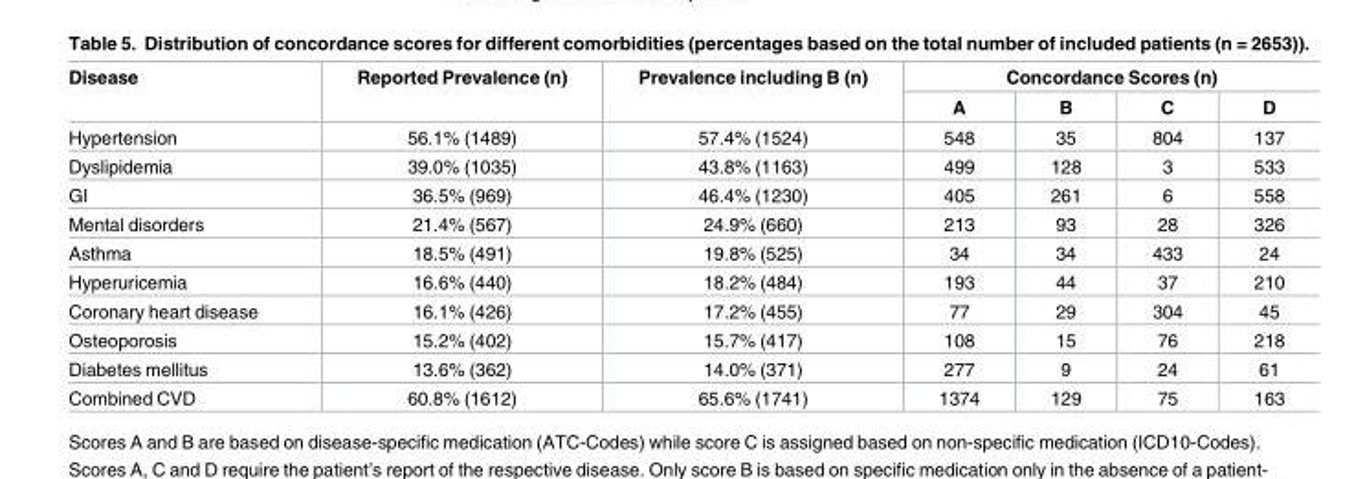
<table><thead><tr><td rowspan="2">Disease</td><td rowspan="2">Reported Prevalence (n)</td><td rowspan="2">Prevalence including B (n)</td><td colspan="4">Concordance Scores (n)</td></tr><tr><td>A</td><td>B</td><td>C</td><td>D</td></tr></thead><tbody><tr><td>Hypertension</td><td>56.1% (1489)</td><td>57.4% (1524)</td><td>548</td><td>35</td><td>804</td><td>137</td></tr><tr><td>Dyslipidemia</td><td>39.0% (1035)</td><td>43.8% (1163)</td><td>499</td><td>128</td><td>3</td><td>533</td></tr><tr><td>GI</td><td>36.5% (969)</td><td>46.4% (1230)</td><td>405</td><td>261</td><td>6</td><td>558</td></tr><tr><td>Mental disorders</td><td>21.4% (567)</td><td>24.9% (660)</td><td>213</td><td>93</td><td>28</td><td>326</td></tr><tr><td>Asthma</td><td>18.5% (491)</td><td>19.8% (525)</td><td>34</td><td>34</td><td>433</td><td>24</td></tr><tr><td>Hyperuricemia</td><td>16.6% (440)</td><td>18.2% (484)</td><td>193</td><td>44</td><td>37</td><td>210</td></tr><tr><td>Coronary heart disease</td><td>16.1% (426)</td><td>17.2% (455)</td><td>77</td><td>29</td><td>304</td><td>45</td></tr><tr><td>Osteoporosis</td><td>15.2% (402)</td><td>15.7% (417)</td><td>108</td><td>15</td><td>76</td><td>218</td></tr><tr><td>Diabetes mellitus</td><td>13.6% (362)</td><td>14.0% (371)</td><td>277</td><td>9</td><td>24</td><td>61</td></tr><tr><td>Combined CVD</td><td>60.8% (1612)</td><td>65.6% (1741)</td><td>1374</td><td>129</td><td>75</td><td>163</td></tr></tbody></table>